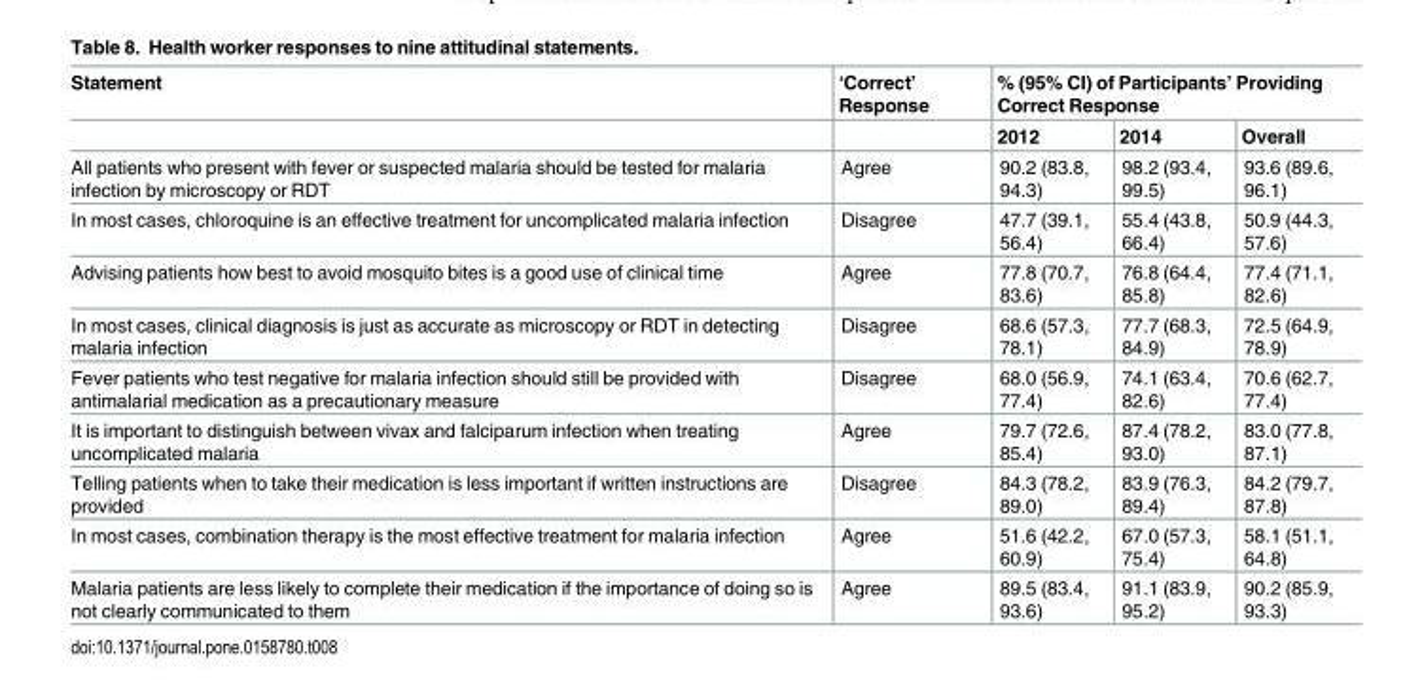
<table><thead><tr><td rowspan="2">Statement</td><td rowspan="2">‘Correct’ Response</td><td colspan="3">% (95% CI) of Participants’ Providing Correct Response</td></tr><tr><td>2012</td><td>2014</td><td>Overall</td></tr></thead><tbody><tr><td>All patients who present with fever or suspected malaria should be tested for malaria infection by microscopy or RDT</td><td>Agree</td><td>90.2 (83.8, 94.3)</td><td>98.2 (93.4, 99.5)</td><td>93.6 (89.6, 96.1)</td></tr><tr><td>In most cases, chloroquine is an effective treatment for uncomplicated malaria infection</td><td>Disagree</td><td>47.7 (39.1, 56.4)</td><td>55.4 (43.8, 66.4)</td><td>50.9 (44.3, 57.6)</td></tr><tr><td>Advising patients how best to avoid mosquito bites is a good use of clinical time</td><td>Agree</td><td>77.8 (70.7, 83.6)</td><td>76.8 (64.4, 85.8)</td><td>77.4 (71.1, 82.6)</td></tr><tr><td>In most cases, clinical diagnosis is just as accurate as microscopy or RDT in detecting malaria infection</td><td>Disagree</td><td>68.6 (57.3, 78.1)</td><td>77.7 (68.3, 84.9)</td><td>72.5 (64.9, 78.9)</td></tr><tr><td>Fever patients who test negative for malaria infection should still be provided with antimalarial medication as a precautionary measure</td><td>Disagree</td><td>68.0 (56.9, 77.4)</td><td>74.1 (63.4, 82.6)</td><td>70.6 (62.7, 77.4)</td></tr><tr><td>It is important to distinguish between vivax and falciparum infection when treating uncomplicated malaria</td><td>Agree</td><td>79.7 (72.6, 85.4)</td><td>87.4 (78.2, 93.0)</td><td>83.0 (77.8, 87.1)</td></tr><tr><td>Telling patients when to take their medication is less important if written instructions are provided</td><td>Disagree</td><td>84.3 (78.2, 89.0)</td><td>83.9 (76.3, 89.4)</td><td>84.2 (79.7, 87.8)</td></tr><tr><td>In most cases, combination therapy is the most effective treatment for malaria infection</td><td>Agree</td><td>51.6 (42.2, 60.9)</td><td>67.0 (57.3, 75.4)</td><td>58.1 (51.1, 64.8)</td></tr><tr><td>Malaria patients are less likely to complete their medication if the importance of doing so is not clearly communicated to them</td><td>Agree</td><td>89.5 (83.4, 93.6)</td><td>91.1 (83.9, 95.2)</td><td>90.2 (85.9, 93.3)</td></tr></tbody></table>